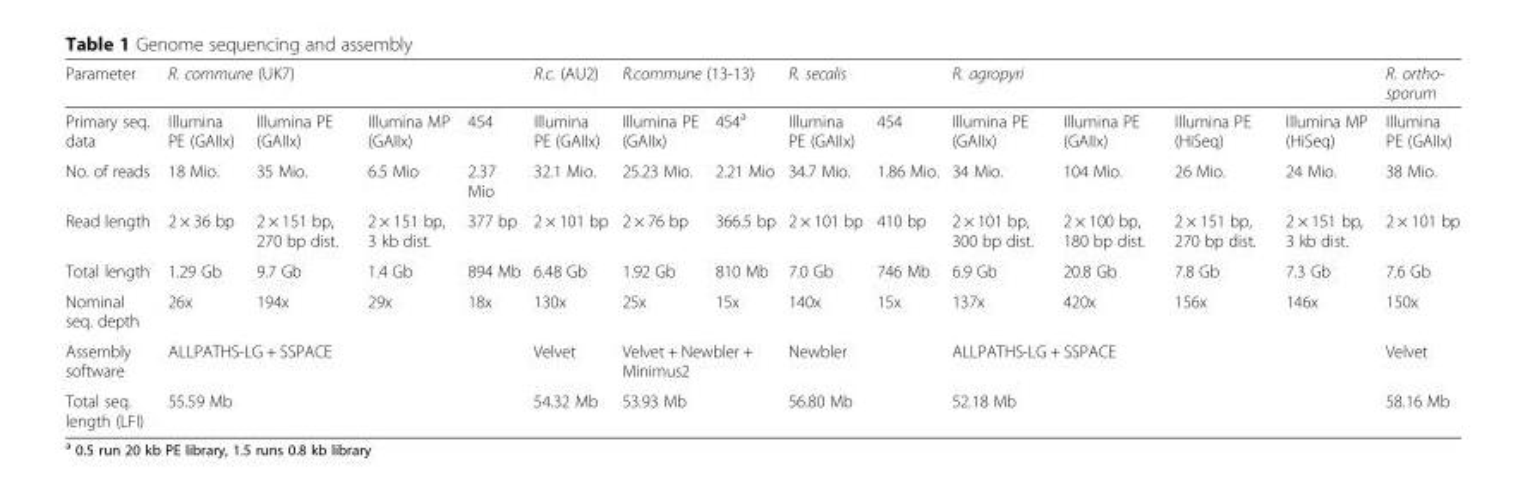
<table><thead><tr><td rowspan="2">Parameter Primary seq. data</td><td colspan="4">R. commune (UK7)</td><td rowspan="2">R.c. (AU2) Illumina PE (GAIIx)</td><td colspan="2">R.commune (13-13)</td><td colspan="2">R. secalis</td><td colspan="4">R. agropyri</td><td rowspan="2">R. ortho- sporum Illumina PE (GAIIx)</td></tr><tr><td>Illumina PE (GAIIx)</td><td>Illumina PE (GAIIx)</td><td>Illumina MP (GAIIx)</td><td>454</td><td>Illumina PE (GAIIx)</td><td>454<sup>a</sup></td><td>Illumina PE (GAIIx)</td><td>454</td><td>Illumina PE (GAIIx)</td><td>Illumina PE (GAIIx)</td><td>Illumina PE (HiSeq)</td><td>Illumina MP (HiSeq)</td></tr></thead><tbody><tr><td>No. of reads</td><td>18 Mio.</td><td>35 Mio.</td><td>6.5 Mio</td><td>2.37 Mio</td><td>32.1 Mio.</td><td>25.23 Mio.</td><td>2.21 Mio</td><td>34.7 Mio.</td><td>1.86 Mio.</td><td>34 Mio.</td><td>104 Mio.</td><td>26 Mio.</td><td>24 Mio.</td><td>38 Mio.</td></tr><tr><td>Read length</td><td>2 × 36 bp</td><td>2 × 151 bp, 270 bp dist.</td><td>2 × 151 bp, 3 kb dist.</td><td>377 bp</td><td>2 × 101 bp</td><td>2 × 76 bp</td><td>366.5 bp</td><td>2 × 101 bp</td><td>410 bp</td><td>2 × 101 bp, 300 bp dist.</td><td>2 × 100 bp, 180 bp dist.</td><td>2 × 151 bp, 270 bp dist.</td><td>2 × 151 bp, 3 kb dist.</td><td>2 × 101 bp</td></tr><tr><td>Total length</td><td>1.29 Gb</td><td>9.7 Gb</td><td>1.4 Gb</td><td>894 Mb</td><td>6.48 Gb</td><td>1.92 Gb</td><td>810 Mb</td><td>7.0 Gb</td><td>746 Mb</td><td>6.9 Gb</td><td>20.8 Gb</td><td>7.8 Gb</td><td>7.3 Gb</td><td>7.6 Gb</td></tr><tr><td>Nominal seq. depth</td><td>26x</td><td>194x</td><td>29x</td><td>18x</td><td>130x</td><td>25x</td><td>15x</td><td>140x</td><td>15x</td><td>137x</td><td>420x</td><td>156x</td><td>146x</td><td>150x</td></tr><tr><td>Assembly software</td><td colspan="4">ALLPATHS-LG + SSPACE</td><td>Velvet</td><td colspan="2">Velvet + Newbler + Minimus2</td><td colspan="2">Newbler</td><td colspan="4">ALLPATHS-LG + SSPACE</td><td>Velvet</td></tr><tr><td>Total seq. length (LFI)</td><td colspan="4">55.59 Mb</td><td>54.32 Mb</td><td colspan="2">53.93 Mb</td><td colspan="2">56.80 Mb</td><td colspan="4">52.18 Mb</td><td>58.16 Mb</td></tr></tbody></table>